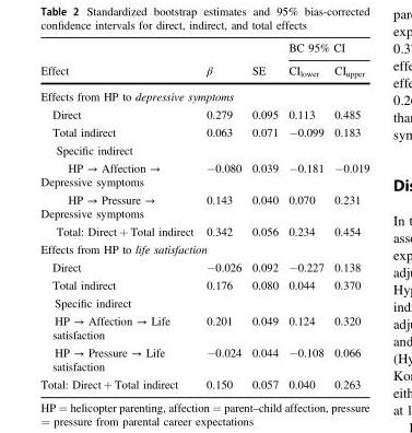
<table><thead><tr><td rowspan="2">Effect</td><td rowspan="2">β</td><td rowspan="2">SE</td><td colspan="2">BC 95% CI</td></tr><tr><td>CI<sub>lower</sub></td><td>CI<sub>upper</sub></td></tr></thead><tbody><tr><td colspan="5">Effects from HP to depressive symptoms</td></tr><tr><td>Direct</td><td>0.279</td><td>0.095</td><td>0.113</td><td>0.485</td></tr><tr><td>Total indirect</td><td>0.063</td><td>0.071</td><td>−0.099</td><td>0.183</td></tr><tr><td colspan="5">Specific indirect</td></tr><tr><td>HP → Affection → Depressive symptoms</td><td>−0.080</td><td>0.039</td><td>−0.181</td><td>−0.019</td></tr><tr><td>HP → Pressure → Depressive symptoms</td><td>0.143</td><td>0.040</td><td>0.070</td><td>0.231</td></tr><tr><td>Total: Direct + Total indirect</td><td>0.342</td><td>0.056</td><td>0.234</td><td>0.454</td></tr><tr><td colspan="5">Effects from HP to life satisfaction</td></tr><tr><td>Direct</td><td>−0.026</td><td>0.092</td><td>−0.227</td><td>0.138</td></tr><tr><td>Total indirect</td><td>0.176</td><td>0.080</td><td>0.044</td><td>0.370</td></tr><tr><td colspan="5">Specific indirect</td></tr><tr><td>HP → Affection → Life satisfaction</td><td>0.201</td><td>0.049</td><td>0.124</td><td>0.320</td></tr><tr><td>HP → Pressure → Life satisfaction</td><td>−0.024</td><td>0.044</td><td>−0.108</td><td>0.066</td></tr><tr><td>Total: Direct + Total indirect</td><td>0.150</td><td>0.057</td><td>0.040</td><td>0.263</td></tr></tbody></table>